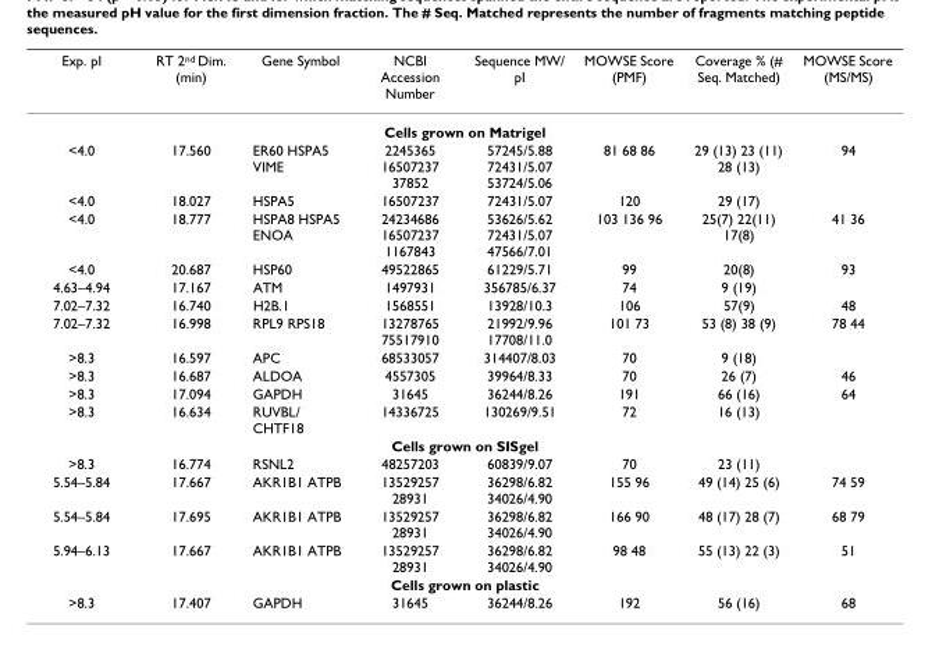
<table><thead><tr><td>Exp. pI</td><td>RT 2<sup>nd</sup> Dim. (min)</td><td>Gene Symbol</td><td>NCBI Accession Number</td><td>Sequence MW/ pI</td><td>MOWSE Score (PMF)</td><td>Coverage % (# Seq. Matched)</td><td>MOWSE Score (MS/MS)</td></tr></thead><tbody><tr><td colspan="8">Cells grown on Matrigel</td></tr><tr><td>&lt;4.0</td><td>17.560</td><td>ER60 HSPA5 VIME</td><td>2245365 16507237 37852</td><td>57245/5.88 72431/5.07 53724/5.06</td><td>81 68 86</td><td>29 (13) 23 (11) 28 (13)</td><td>94</td></tr><tr><td>&lt;4.0</td><td>18.027</td><td>HSPA5</td><td>16507237</td><td>72431/5.07</td><td>120</td><td>29 (17)</td><td></td></tr><tr><td>&lt;4.0</td><td>18.777</td><td>HSPA8 HSPA5 ENOA</td><td>24234686 16507237 1167843</td><td>53626/5.62 72431/5.07 47566/7.01</td><td>103 136 96</td><td>25(7) 22(11) 17(8)</td><td>41 36</td></tr><tr><td>&lt;4.0</td><td>20.687</td><td>HSP60</td><td>49522865</td><td>61229/5.71</td><td>99</td><td>20(8)</td><td>93</td></tr><tr><td>4.63–4.94</td><td>17.167</td><td>ATM</td><td>1497931</td><td>356785/6.37</td><td>74</td><td>9 (19)</td><td></td></tr><tr><td>7.02–7.32</td><td>16.740</td><td>H2B.1</td><td>1568551</td><td>13928/10.3</td><td>106</td><td>57(9)</td><td>48</td></tr><tr><td>7.02–7.32</td><td>16.998</td><td>RPL9 RPS18</td><td>13278765 75517910</td><td>21992/9.96 17708/11.0</td><td>101 73</td><td>53 (8) 38 (9)</td><td>78 44</td></tr><tr><td>&gt;8.3</td><td>16.597</td><td>APC</td><td>68533057</td><td>314407/8.03</td><td>70</td><td>9 (18)</td><td></td></tr><tr><td>&gt;8.3</td><td>16.687</td><td>ALDOA</td><td>4557305</td><td>39964/8.33</td><td>70</td><td>26 (7)</td><td>46</td></tr><tr><td>&gt;8.3</td><td>17.094</td><td>GAPDH</td><td>31645</td><td>36244/8.26</td><td>191</td><td>66 (16)</td><td>64</td></tr><tr><td>&gt;8.3</td><td>16.634</td><td>RUVBL/ CHTF18</td><td>14336725</td><td>130269/9.51</td><td>72</td><td>16 (13)</td><td></td></tr><tr><td colspan="8">Cells grown on SISgel</td></tr><tr><td>&gt;8.3</td><td>16.774</td><td>RSNL2</td><td>48257203</td><td>60839/9.07</td><td>70</td><td>23 (11)</td><td></td></tr><tr><td>5.54–5.84</td><td>17.667</td><td>AKR1B1 ATPB</td><td>13529257 28931</td><td>36298/6.82 34026/4.90</td><td>155 96</td><td>49 (14) 25 (6)</td><td>74 59</td></tr><tr><td>5.54–5.84</td><td>17.695</td><td>AKR1B1 ATPB</td><td>13529257 28931</td><td>36298/6.82 34026/4.90</td><td>166 90</td><td>48 (17) 28 (7)</td><td>68 79</td></tr><tr><td>5.94–6.13</td><td>17.667</td><td>AKR1B1 ATPB</td><td>13529257 28931</td><td>36298/6.82 34026/4.90</td><td>98 48</td><td>55 (13) 22 (3)</td><td>51</td></tr><tr><td colspan="8">Cells grown on plastic</td></tr><tr><td>&gt;8.3</td><td>17.407</td><td>GAPDH</td><td>31645</td><td>36244/8.26</td><td>192</td><td>56 (16)</td><td>68</td></tr></tbody></table>